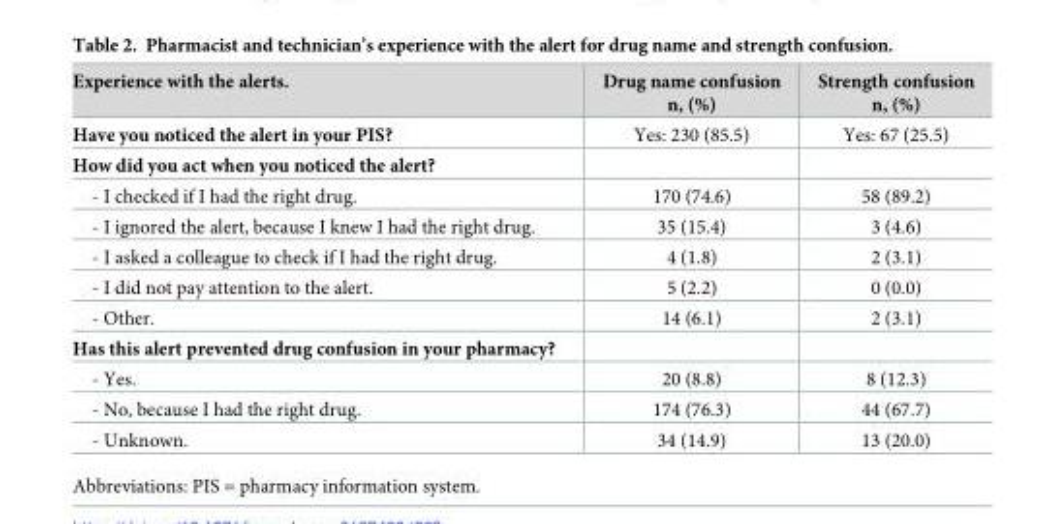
<table><thead><tr><td>Experience with the alerts.</td><td>Drug name confusion n, (%)</td><td>Strength confusion n, (%)</td></tr></thead><tbody><tr><td>Have you noticed the alert in your PIS?</td><td>Yes: 230 (85.5)</td><td>Yes: 67 (25.5)</td></tr><tr><td colspan="3">How did you act when you noticed the alert?</td></tr><tr><td>- I checked if I had the right drug.</td><td>170 (74.6)</td><td>58 (89.2)</td></tr><tr><td>- I ignored the alert, because I knew I had the right drug.</td><td>35 (15.4)</td><td>3 (4.6)</td></tr><tr><td>- I asked a colleague to check if I had the right drug.</td><td>4 (1.8)</td><td>2 (3.1)</td></tr><tr><td>- I did not pay attention to the alert.</td><td>5 (2.2)</td><td>0 (0.0)</td></tr><tr><td>- Other.</td><td>14 (6.1)</td><td>2 (3.1)</td></tr><tr><td colspan="3">Has this alert prevented drug confusion in your pharmacy?</td></tr><tr><td>- Yes.</td><td>20 (8.8)</td><td>8 (12.3)</td></tr><tr><td>- No, because I had the right drug.</td><td>174 (76.3)</td><td>44 (67.7)</td></tr><tr><td>- Unknown.</td><td>34 (14.9)</td><td>13 (20.0)</td></tr></tbody></table>